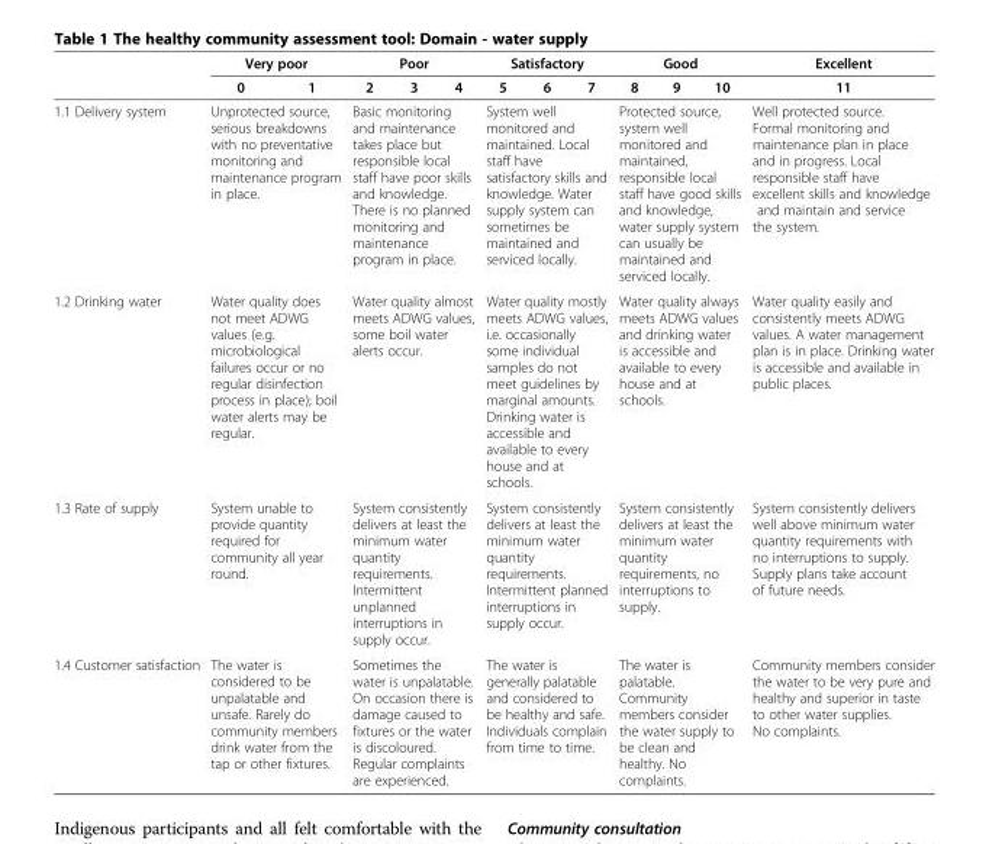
<table><thead><tr><td rowspan="2"></td><td colspan="2">Very poor</td><td colspan="3">Poor</td><td colspan="3">Satisfactory</td><td colspan="3">Good</td><td rowspan="2">Excellent 11</td></tr><tr><td>0</td><td>1</td><td>2</td><td>3</td><td>4</td><td>5</td><td>6</td><td>7</td><td>8</td><td>9</td><td>10</td></tr></thead><tbody><tr><td>1.1 Delivery system</td><td colspan="2">Unprotected source, serious breakdowns with no preventative monitoring and maintenance program in place.</td><td colspan="3">Basic monitoring and maintenance takes place but responsible local staff have poor skills and knowledge. There is no planned monitoring and maintenance program in place.</td><td colspan="3">System well monitored and maintained. Local staff have satisfactory skills and knowledge. Water supply system can sometimes be maintained and serviced locally.</td><td colspan="3">Protected source, system well monitored and maintained, responsible local staff have good skills and knowledge, water supply system can usually be maintained and serviced locally.</td><td>Well protected source. Formal monitoring and maintenance plan in place and in progress. Local responsible staff have excellent skills and knowledge and maintain and service the system.</td></tr><tr><td>1.2 Drinking water</td><td colspan="2">Water quality does not meet ADWG values (e.g. microbiological failures occur or no regular disinfection process in place); boil water alerts may be regular.</td><td colspan="3">Water quality almost meets ADWG values, some boil water alerts occur.</td><td colspan="3">Water quality mostly meets ADWG values, i.e. occasionally some individual samples do not meet guidelines by marginal amounts. Drinking water is accessible and available to every house and at schools.</td><td colspan="3">Water quality always meets ADWG values and drinking water is accessible and available to every house and at schools.</td><td>Water quality easily and consistently meets ADWG values. A water management plan is in place. Drinking water is accessible and available in public places.</td></tr><tr><td>1.3 Rate of supply</td><td colspan="2">System unable to provide quantity required for community all year round.</td><td colspan="3">System consistently delivers at least the minimum water quantity requirements. Intermittent unplanned interruptions in supply occur.</td><td colspan="3">System consistently delivers at least the minimum water quantity requirements. Intermittent planned interruptions in supply occur.</td><td colspan="3">System consistently delivers at least the minimum water quantity requirements, no interruptions to supply.</td><td>System consistently delivers well above minimum water quantity requirements with no interruptions to supply. Supply plans take account of future needs.</td></tr><tr><td>1.4 Customer satisfaction</td><td colspan="2">The water is considered to be unpalatable and unsafe. Rarely do community members drink water from the tap or other fixtures.</td><td colspan="3">Sometimes the water is unpalatable. On occasion there is damage caused to fixtures or the water is discoloured. Regular complaints are experienced.</td><td colspan="3">The water is generally palatable and considered to be healthy and safe. Individuals complain from time to time.</td><td colspan="3">The water is palatable. Community members consider the water supply to be clean and healthy. No complaints.</td><td>Community members consider the water to be very pure and healthy and superior in taste to other water supplies. No complaints.</td></tr></tbody></table>